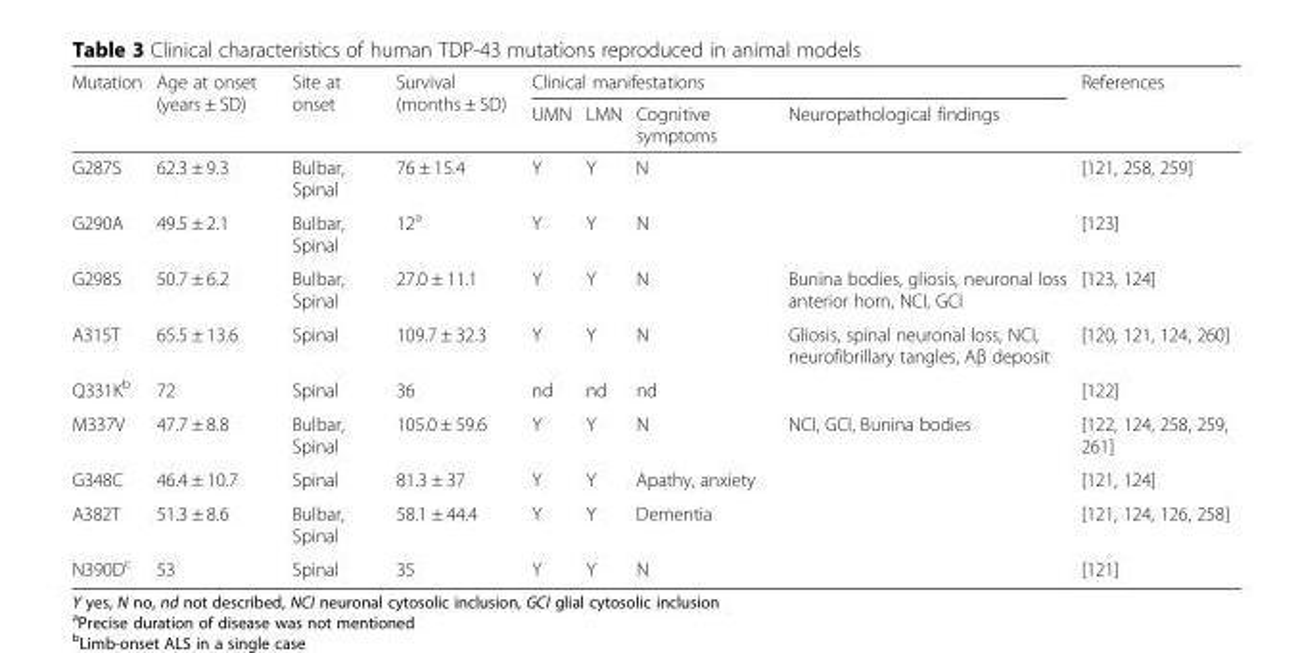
<table><thead><tr><td rowspan="2">Mutation</td><td rowspan="2">Age at onset (years ± SD)</td><td rowspan="2">Site at onset</td><td rowspan="2">Survival (months ± SD)</td><td colspan="4">Clinical manifestations</td><td rowspan="2">References</td></tr><tr><td>UMN</td><td>LMN</td><td>Cognitive symptoms</td><td>Neuropathological findings</td></tr></thead><tbody><tr><td>G287S</td><td>62.3 ± 9.3</td><td>Bulbar, Spinal</td><td>76 ± 15.4</td><td>Y</td><td>Y</td><td>N</td><td></td><td>[121, 258, 259]</td></tr><tr><td>G290A</td><td>49.5 ± 2.1</td><td>Bulbar, Spinal</td><td>12<sup>a</sup></td><td>Y</td><td>Y</td><td>N</td><td></td><td>[123]</td></tr><tr><td>G298S</td><td>50.7 ± 6.2</td><td>Bulbar, Spinal</td><td>27.0 ± 11.1</td><td>Y</td><td>Y</td><td>N</td><td>Bunina bodies, gliosis, neuronal loss anterior horn, NCI, GCI</td><td>[123, 124]</td></tr><tr><td>A315T</td><td>65.5 ± 13.6</td><td>Spinal</td><td>109.7 ± 32.3</td><td>Y</td><td>Y</td><td>N</td><td>Gliosis, spinal neuronal loss, NCI, neurofibrillary tangles, Aβ deposit</td><td>[120, 121, 124, 260]</td></tr><tr><td>Q331K<sup>b</sup></td><td>72</td><td>Spinal</td><td>36</td><td>nd</td><td>nd</td><td>nd</td><td></td><td>[122]</td></tr><tr><td>M337V</td><td>47.7 ± 8.8</td><td>Bulbar, Spinal</td><td>105.0 ± 59.6</td><td>Y</td><td>Y</td><td>N</td><td>NCI, GCI, Bunina bodies</td><td>[122, 124, 258, 259, 261]</td></tr><tr><td>G348C</td><td>46.4 ± 10.7</td><td>Spinal</td><td>81.3 ± 37</td><td>Y</td><td>Y</td><td>Apathy, anxiety</td><td></td><td>[121, 124]</td></tr><tr><td>A382T</td><td>51.3 ± 8.6</td><td>Bulbar, Spinal</td><td>58.1 ± 44.4</td><td>Y</td><td>Y</td><td>Dementia</td><td></td><td>[121, 124, 126, 258]</td></tr><tr><td>N390D<sup>c</sup></td><td>53</td><td>Spinal</td><td>35</td><td>Y</td><td>Y</td><td>N</td><td></td><td>[121]</td></tr></tbody></table>